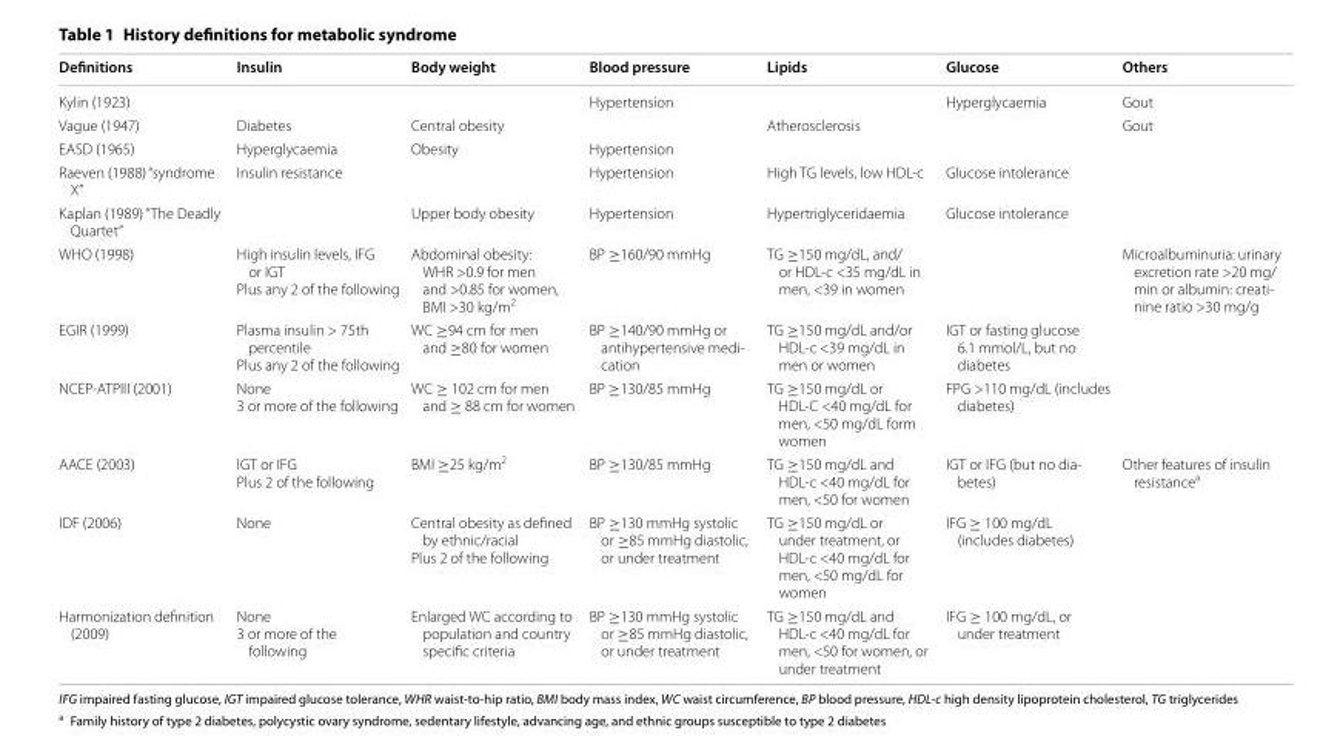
<table><thead><tr><td>Definitions</td><td>Insulin</td><td>Body weight</td><td>Blood pressure</td><td>Lipids</td><td>Glucose</td><td>Others</td></tr></thead><tbody><tr><td>Kylin (1923)</td><td></td><td></td><td>Hypertension</td><td></td><td>Hyperglycaemia</td><td>Gout</td></tr><tr><td>Vague (1947)</td><td>Diabetes</td><td>Central obesity</td><td></td><td>Atherosclerosis</td><td></td><td>Gout</td></tr><tr><td>EASD (1965)</td><td>Hyperglycaemia</td><td>Obesity</td><td>Hypertension</td><td></td><td></td><td></td></tr><tr><td>Raeven (1988) “syndrome X”</td><td>Insulin resistance</td><td></td><td>Hypertension</td><td>High TG levels, low HDL‑c</td><td>Glucose intolerance</td><td></td></tr><tr><td>Kaplan (1989) “The Deadly Quartet”</td><td></td><td>Upper body obesity</td><td>Hypertension</td><td>Hypertriglyceridaemia</td><td>Glucose intolerance</td><td></td></tr><tr><td>WHO (1998)</td><td>High insulin levels, IFG or IGT Plus any 2 of the following</td><td>Abdominal obesity: WHR &gt;0.9 for men and &gt;0.85 for women, BMI &gt;30 kg/m<sup>2</sup></td><td>BP ≥160/90 mmHg</td><td>TG ≥150 mg/dL, and/ or HDL‑c &lt;35 mg/dL in men, &lt;39 in women</td><td></td><td>Microalbuminuria: urinary excretion rate &gt;20 mg/ min or albumin: creati‑ nine ratio &gt;30 mg/g</td></tr><tr><td>EGIR (1999)</td><td>Plasma insulin &gt; 75th percentile Plus any 2 of the following</td><td>WC ≥94 cm for men and ≥80 for women</td><td>BP ≥140/90 mmHg or antihypertensive medi‑ cation</td><td>TG ≥150 mg/dL and/or HDL‑c &lt;39 mg/dL in men or women</td><td>IGT or fasting glucose 6.1 mmol/L, but no diabetes</td><td></td></tr><tr><td>NCEP‑ATPIII (2001)</td><td>None 3 or more of the following</td><td>WC ≥ 102 cm for men and ≥ 88 cm for women</td><td>BP ≥130/85 mmHg</td><td>TG ≥150 mg/dL or HDL‑C &lt;40 mg/dL for men, &lt;50 mg/dL form women</td><td>FPG &gt;110 mg/dL (includes diabetes)</td><td></td></tr><tr><td>AACE (2003)</td><td>IGT or IFG Plus 2 of the following</td><td>BMI ≥25 kg/m<sup>2</sup></td><td>BP ≥130/85 mmHg</td><td>TG ≥150 mg/dL and HDL‑c &lt;40 mg/dL for men, &lt;50 for women</td><td>IGT or IFG (but no dia‑ betes)</td><td>Other features of insulin resistance<sup>a</sup></td></tr><tr><td>IDF (2006)</td><td>None</td><td>Central obesity as defined by ethnic/racial Plus 2 of the following</td><td>BP ≥130 mmHg systolic or ≥85 mmHg diastolic, or under treatment</td><td>TG ≥150 mg/dL or under treatment, or HDL‑c &lt;40 mg/dL for men, &lt;50 mg/dL for women</td><td>IFG ≥ 100 mg/dL (includes diabetes)</td><td></td></tr><tr><td>Harmonization definition (2009)</td><td>None 3 or more of the following</td><td>Enlarged WC according to population and country specific criteria</td><td>BP ≥130 mmHg systolic or ≥85 mmHg diastolic, or under treatment</td><td>TG ≥150 mg/dL and HDL‑c &lt;40 mg/dL for men, &lt;50 for women, or under treatment</td><td>IFG ≥ 100 mg/dL, or under treatment</td><td></td></tr></tbody></table>